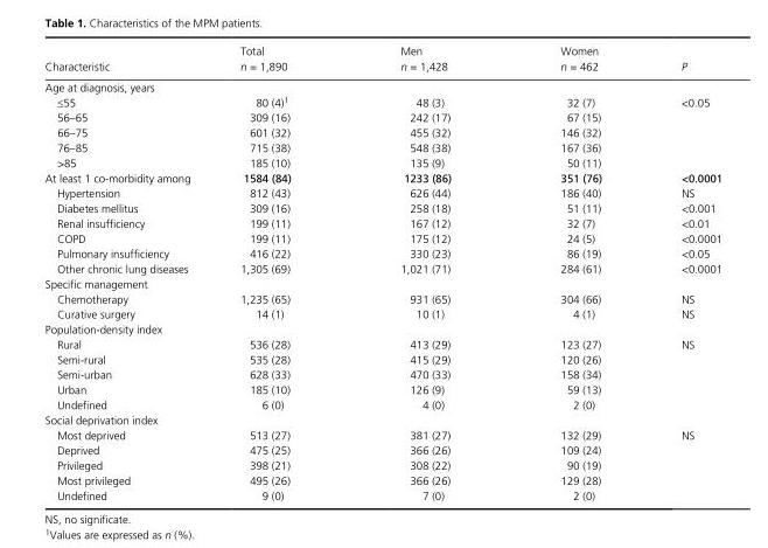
<table><thead><tr><td>Characteristic</td><td>Total n = 1,890</td><td>Men n = 1,428</td><td>Women n = 462</td><td>P</td></tr></thead><tbody><tr><td colspan="5">Age at diagnosis, years</td></tr><tr><td>≤55</td><td>80 (4)1</td><td>48 (3)</td><td>32 (7)</td><td rowspan="5">&lt;0.05</td></tr><tr><td>56–65</td><td>309 (16)</td><td>242 (17)</td><td>67 (15)</td></tr><tr><td>66–75</td><td>601 (32)</td><td>455 (32)</td><td>146 (32)</td></tr><tr><td>76–85</td><td>715 (38)</td><td>548 (38)</td><td>167 (36)</td></tr><tr><td>&gt;85</td><td>185 (10)</td><td>135 (9)</td><td>50 (11)</td></tr><tr><td>At least 1 co- morbidity among</td><td>1584 (84)</td><td>1233 (86)</td><td>351 (76)</td><td>&lt;0.0001</td></tr><tr><td>Hypertension</td><td>812 (43)</td><td>626 (44)</td><td>186 (40)</td><td>NS</td></tr><tr><td>Diabetes mellitus</td><td>309 (16)</td><td>258 (18)</td><td>51 (11)</td><td>&lt;0.001</td></tr><tr><td>Renal insufficiency</td><td>199 (11)</td><td>167 (12)</td><td>32 (7)</td><td>&lt;0.01</td></tr><tr><td>COPD</td><td>199 (11)</td><td>175 (12)</td><td>24 (5)</td><td>&lt;0.0001</td></tr><tr><td>Pulmonary insufficiency</td><td>416 (22)</td><td>330 (23)</td><td>86 (19)</td><td>&lt;0.05</td></tr><tr><td>Other chronic lung diseases</td><td>1,305 (69)</td><td>1,021 (71)</td><td>284 (61)</td><td>&lt;0.0001</td></tr><tr><td colspan="5">Specific management</td></tr><tr><td>Chemotherapy</td><td>1,235 (65)</td><td>931 (65)</td><td>304 (66)</td><td>NS</td></tr><tr><td>Curative surgery</td><td>14 (1)</td><td>10 (1)</td><td>4 (1)</td><td>NS</td></tr><tr><td colspan="5">Population- density index</td></tr><tr><td>Rural</td><td>536 (28)</td><td>413 (29)</td><td>123 (27)</td><td rowspan="5">NS</td></tr><tr><td>Semi- rural</td><td>535 (28)</td><td>415 (29)</td><td>120 (26)</td></tr><tr><td>Semi- urban</td><td>628 (33)</td><td>470 (33)</td><td>158 (34)</td></tr><tr><td>Urban</td><td>185 (10)</td><td>126 (9)</td><td>59 (13)</td></tr><tr><td>Undefined</td><td>6 (0)</td><td>4 (0)</td><td>2 (0)</td></tr><tr><td colspan="5">Social deprivation index</td></tr><tr><td>Most deprived</td><td>513 (27)</td><td>381 (27)</td><td>132 (29)</td><td rowspan="5">NS</td></tr><tr><td>Deprived</td><td>475 (25)</td><td>366 (26)</td><td>109 (24)</td></tr><tr><td>Privileged</td><td>398 (21)</td><td>308 (22)</td><td>90 (19)</td></tr><tr><td>Most privileged</td><td>495 (26)</td><td>366 (26)</td><td>129 (28)</td></tr><tr><td>Undefined</td><td>9 (0)</td><td>7 (0)</td><td>2 (0)</td></tr></tbody></table>